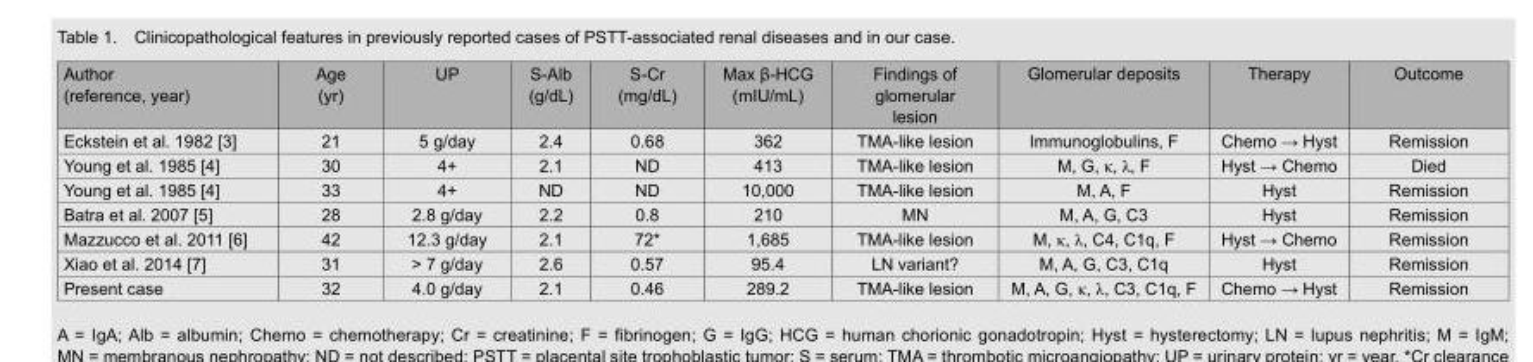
<table><thead><tr><td>Author (reference, year)</td><td>Age (yr)</td><td>UP</td><td>S-Alb (g/dL)</td><td>S-Cr (mg/dL)</td><td>Max β-HCG (mIU/mL)</td><td>Findings of glomerular lesion</td><td>Glomerular deposits</td><td>Therapy</td><td>Outcome</td></tr></thead><tbody><tr><td>Eckstein et al. 1982 [3]</td><td>21</td><td>5 g/day</td><td>2.4</td><td>0.68</td><td>362</td><td>TMA-like lesion</td><td>Immunoglobulins, F</td><td>Chemo → Hyst</td><td>Remission</td></tr><tr><td>Young et al. 1985 [4]</td><td>30</td><td>4+</td><td>2.1</td><td>ND</td><td>413</td><td>TMA-like lesion</td><td>M, G, κ, λ, F</td><td>Hyst → Chemo</td><td>Died</td></tr><tr><td>Young et al. 1985 [4]</td><td>33</td><td>4+</td><td>ND</td><td>ND</td><td>10,000</td><td>TMA-like lesion</td><td>M, A, F</td><td>Hyst</td><td>Remission</td></tr><tr><td>Batra et al. 2007 [5]</td><td>28</td><td>2.8 g/day</td><td>2.2</td><td>0.8</td><td>210</td><td>MN</td><td>M, A, G, C3</td><td>Hyst</td><td>Remission</td></tr><tr><td>Mazzucco et al. 2011 [6]</td><td>42</td><td>12.3 g/day</td><td>2.1</td><td>72*</td><td>1,685</td><td>TMA-like lesion</td><td>M, κ, λ, C4, C1q, F</td><td>Hyst → Chemo</td><td>Remission</td></tr><tr><td>Xiao et al. 2014 [7]</td><td>31</td><td>&gt; 7 g/day</td><td>2.6</td><td>0.57</td><td>95.4</td><td>LN variant?</td><td>M, A, G, C3, C1q</td><td>Hyst</td><td>Remission</td></tr><tr><td>Present case</td><td>32</td><td>4.0 g/day</td><td>2.1</td><td>0.46</td><td>289.2</td><td>TMA-like lesion</td><td>M, A, G, κ, λ, C3, C1q, F</td><td>Chemo → Hyst</td><td>Remission</td></tr></tbody></table>